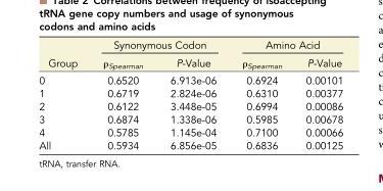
<table><thead><tr><td rowspan="2">Group</td><td colspan="2">Synonymous Codon</td><td colspan="2">Amino Acid</td></tr><tr><td>ρ<sub>Spearman</sub></td><td>P-Value</td><td>ρ<sub>Spearman</sub></td><td>P-Value</td></tr></thead><tbody><tr><td>0</td><td>0.6520</td><td>6.913e-06</td><td>0.6924</td><td>0.00101</td></tr><tr><td>1</td><td>0.6719</td><td>2.824e-06</td><td>0.6310</td><td>0.00377</td></tr><tr><td>2</td><td>0.6122</td><td>3.448e-05</td><td>0.6994</td><td>0.00086</td></tr><tr><td>3</td><td>0.6874</td><td>1.338e-06</td><td>0.5985</td><td>0.00678</td></tr><tr><td>4</td><td>0.5785</td><td>1.145e-04</td><td>0.7100</td><td>0.00066</td></tr><tr><td>All</td><td>0.5934</td><td>6.856e-05</td><td>0.6836</td><td>0.00125</td></tr></tbody></table>